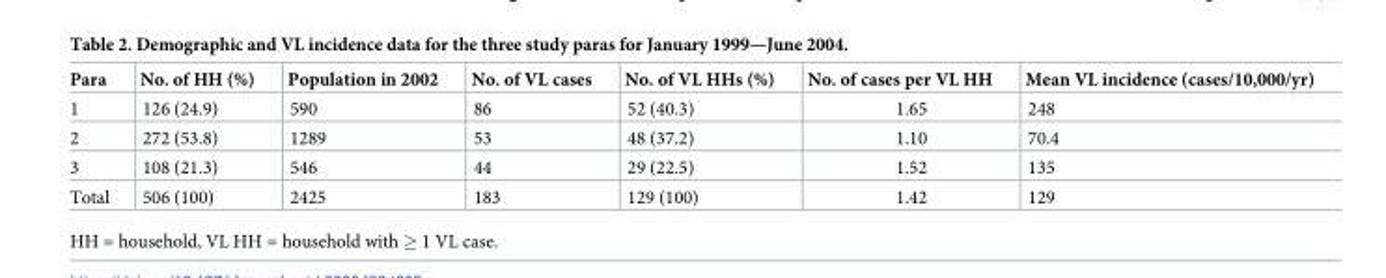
<table><thead><tr><td>Para</td><td>No. of HH (%)</td><td>Population in 2002</td><td>No. of VL cases</td><td>No. of VL HHs (%)</td><td>No. of cases per VL HH</td><td>Mean VL incidence (cases/10,000/yr)</td></tr></thead><tbody><tr><td>1</td><td>126 (24.9)</td><td>590</td><td>86</td><td>52 (40.3)</td><td>1.65</td><td>248</td></tr><tr><td>2</td><td>272 (53.8)</td><td>1289</td><td>53</td><td>48 (37.2)</td><td>1.10</td><td>70.4</td></tr><tr><td>3</td><td>108 (21.3)</td><td>546</td><td>44</td><td>29 (22.5)</td><td>1.52</td><td>135</td></tr><tr><td>Total</td><td>506 (100)</td><td>2425</td><td>183</td><td>129 (100)</td><td>1.42</td><td>129</td></tr></tbody></table>